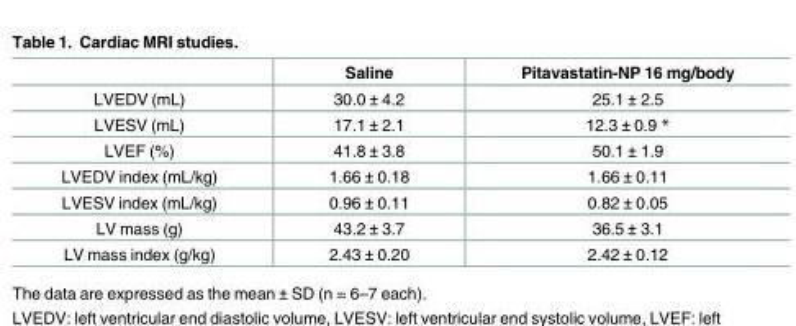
<table><thead><tr><td></td><td>Saline</td><td>Pitavastatin-NP 16 mg/body</td></tr></thead><tbody><tr><td>LVEDV (mL)</td><td>30.0 ± 4.2</td><td>25.1 ± 2.5</td></tr><tr><td>LVESV (mL)</td><td>17.1 ± 2.1</td><td>12.3 ± 0.9 *</td></tr><tr><td>LVEF (%)</td><td>41.8 ± 3.8</td><td>50.1 ± 1.9</td></tr><tr><td>LVEDV index (mL/kg)</td><td>1.66 ± 0.18</td><td>1.66 ± 0.11</td></tr><tr><td>LVESV index (mL/kg)</td><td>0.96 ± 0.11</td><td>0.82 ± 0.05</td></tr><tr><td>LV mass (g)</td><td>43.2 ± 3.7</td><td>36.5 ± 3.1</td></tr><tr><td>LV mass index (g/kg)</td><td>2.43 ± 0.20</td><td>2.42 ± 0.12</td></tr></tbody></table>